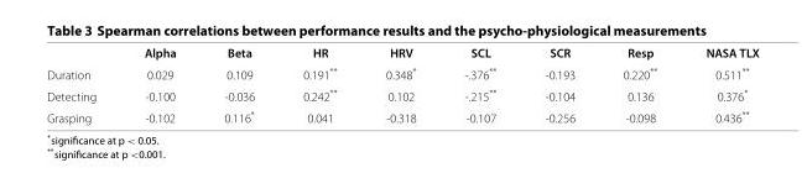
<table><thead><tr><td></td><td>Alpha</td><td>Beta</td><td>HR</td><td>HRV</td><td>SCL</td><td>SCR</td><td>Resp</td><td>NASA TLX</td></tr></thead><tbody><tr><td>Duration</td><td>0.029</td><td>0.109</td><td>0.191**</td><td>0.348*</td><td>-.376**</td><td>-0.193</td><td>0.220**</td><td>0.511**</td></tr><tr><td>Detecting</td><td>-0.100</td><td>-0.036</td><td>0.242**</td><td>0.102</td><td>-.215**</td><td>-0.104</td><td>0.136</td><td>0.376*</td></tr><tr><td>Grasping</td><td>-0.102</td><td>0.116*</td><td>0.041</td><td>-0.318</td><td>-0.107</td><td>-0.256</td><td>-0.098</td><td>0.436**</td></tr></tbody></table>